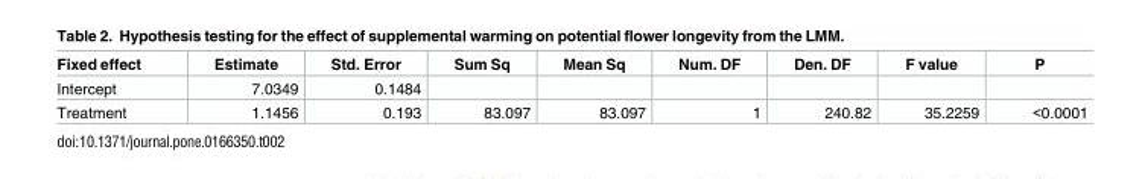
<table><thead><tr><td>Fixed effect</td><td>Estimate</td><td>Std. Error</td><td>Sum Sq</td><td>Mean Sq</td><td>Num. DF</td><td>Den. DF</td><td>F value</td><td>P</td></tr></thead><tbody><tr><td>Intercept</td><td>7.0349</td><td>0.1484</td><td></td><td></td><td></td><td></td><td></td><td></td></tr><tr><td>Treatment</td><td>1.1456</td><td>0.193</td><td>83.097</td><td>83.097</td><td>1</td><td>240.82</td><td>35.2259</td><td>&lt;0.0001</td></tr></tbody></table>